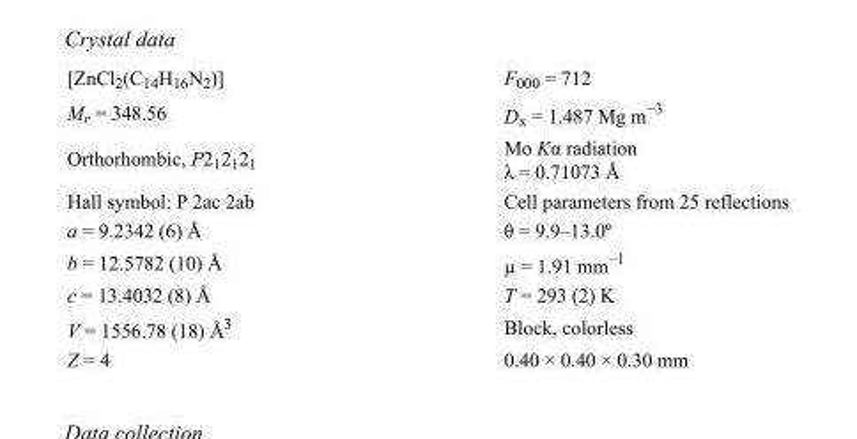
<table><tbody><tr><td>[ZnCl<sub>2</sub>(C<sub>14</sub>H<sub>16</sub>N<sub>2</sub>)]</td><td>F<sub>000</sub> = 712</td></tr><tr><td>M<sub>r</sub> = 348.56</td><td>D<sub>x</sub> = 1.487 Mg m<sup>−3</sup></td></tr><tr><td>Orthorhombic, P2<sub>1</sub>2<sub>1</sub>2<sub>1</sub></td><td>Mo Kα radiation λ = 0.71073 Å</td></tr><tr><td>Hall symbol: P 2ac 2ab</td><td>Cell parameters from 25 reflections</td></tr><tr><td>a = 9.2342 (6) Å</td><td>θ = 9.9–13.0º</td></tr><tr><td>b = 12.5782 (10) Å</td><td>µ = 1.91 mm<sup>−1</sup></td></tr><tr><td>c = 13.4032 (8) Å</td><td>T = 293 (2) K</td></tr><tr><td>V = 1556.78 (18) Å<sup>3</sup></td><td>Block, colorless</td></tr><tr><td>Z = 4</td><td>0.40 × 0.40 × 0.30 mm</td></tr></tbody></table>